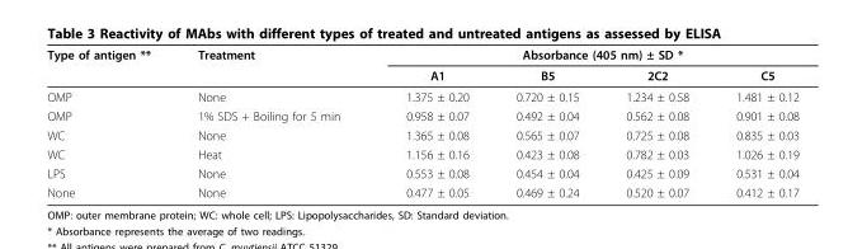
<table><thead><tr><td rowspan="2">Type of antigen **</td><td rowspan="2">Treatment</td><td colspan="4">Absorbance (405 nm) ± SD *</td></tr><tr><td>A1</td><td>B5</td><td>2C2</td><td>C5</td></tr></thead><tbody><tr><td>OMP</td><td>None</td><td>1.375 ± 0.20</td><td>0.720 ± 0.15</td><td>1.234 ± 0.58</td><td>1.481 ± 0.12</td></tr><tr><td>OMP</td><td>1% SDS + Boiling for 5 min</td><td>0.958 ± 0.07</td><td>0.492 ± 0.04</td><td>0.562 ± 0.08</td><td>0.901 ± 0.08</td></tr><tr><td>WC</td><td>None</td><td>1.365 ± 0.08</td><td>0.565 ± 0.07</td><td>0.725 ± 0.08</td><td>0.835 ± 0.03</td></tr><tr><td>WC</td><td>Heat</td><td>1.156 ± 0.16</td><td>0.423 ± 0.08</td><td>0.782 ± 0.03</td><td>1.026 ± 0.19</td></tr><tr><td>LPS</td><td>None</td><td>0.553 ± 0.08</td><td>0.454 ± 0.04</td><td>0.425 ± 0.09</td><td>0.531 ± 0.04</td></tr><tr><td>None</td><td>None</td><td>0.477 ± 0.05</td><td>0.469 ± 0.24</td><td>0.520 ± 0.07</td><td>0.412 ± 0.17</td></tr></tbody></table>